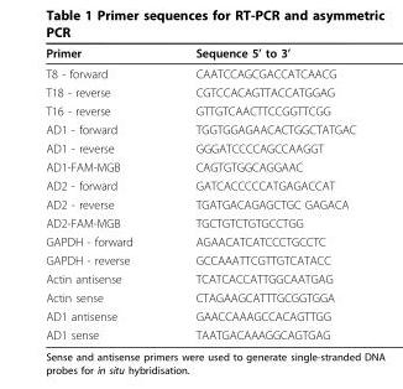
<table><thead><tr><td>Primer</td><td>Sequence 5’ to 3’</td></tr></thead><tbody><tr><td>T8 - forward</td><td>CAATCCAGCGACCATCAACG</td></tr><tr><td>T18 - reverse</td><td>CGTCCACAGTTACCATGGAG</td></tr><tr><td>T16 - reverse</td><td>GTTGTCAACTTCCGGTTCGG</td></tr><tr><td>AD1 - forward</td><td>TGGTGGAGAACACTGGCTATGAC</td></tr><tr><td>AD1 - reverse</td><td>GGGATCCCCAGCCAAGGT</td></tr><tr><td>AD1-FAM-MGB</td><td>CAGTGTGGCAGGAAC</td></tr><tr><td>AD2 - forward</td><td>GATCACCCCCATGAGACCAT</td></tr><tr><td>AD2 - reverse</td><td>TGATGACAGAGCTGC GAGACA</td></tr><tr><td>AD2-FAM-MGB</td><td>TGCTGTCTGTGCCTGG</td></tr><tr><td>GAPDH - forward</td><td>AGAACATCATCCCTGCCTC</td></tr><tr><td>GAPDH - reverse</td><td>GCCAAATTCGTTGTCATACC</td></tr><tr><td>Actin antisense</td><td>TCATCACCATTGGCAATGAG</td></tr><tr><td>Actin sense</td><td>CTAGAAGCATTTGCGGTGGA</td></tr><tr><td>AD1 antisense</td><td>GAACCAAAGCCACAGTTGG</td></tr><tr><td>AD1 sense</td><td>TAATGACAAAGGCAGTGAG</td></tr></tbody></table>